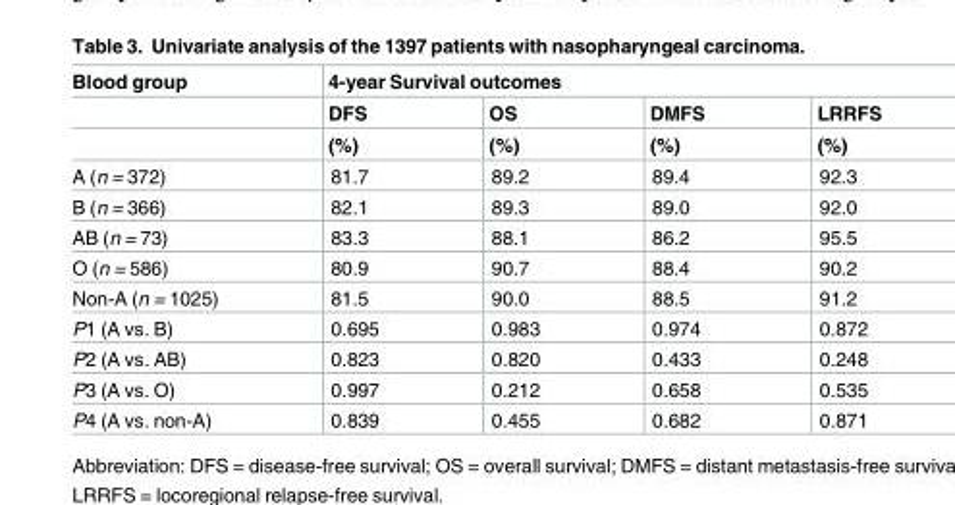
<table><thead><tr><td rowspan="3">Blood group</td><td colspan="4">4-year Survival outcomes</td></tr><tr><td rowspan="2">DFS (%)</td><td rowspan="2">OS (%)</td><td rowspan="2">DMFS (%)</td><td rowspan="2">LRRFS (%)</td></tr><tr></tr></thead><tbody><tr><td>A (n = 372)</td><td>81.7</td><td>89.2</td><td>89.4</td><td>92.3</td></tr><tr><td>B (n = 366)</td><td>82.1</td><td>89.3</td><td>89.0</td><td>92.0</td></tr><tr><td>AB (n = 73)</td><td>83.3</td><td>88.1</td><td>86.2</td><td>95.5</td></tr><tr><td>O (n = 586)</td><td>80.9</td><td>90.7</td><td>88.4</td><td>90.2</td></tr><tr><td>Non-A (n = 1025)</td><td>81.5</td><td>90.0</td><td>88.5</td><td>91.2</td></tr><tr><td>P1 (A vs. B)</td><td>0.695</td><td>0.983</td><td>0.974</td><td>0.872</td></tr><tr><td>P2 (A vs. AB)</td><td>0.823</td><td>0.820</td><td>0.433</td><td>0.248</td></tr><tr><td>P3 (A vs. O)</td><td>0.997</td><td>0.212</td><td>0.658</td><td>0.535</td></tr><tr><td>P4 (A vs. non-A)</td><td>0.839</td><td>0.455</td><td>0.682</td><td>0.871</td></tr></tbody></table>